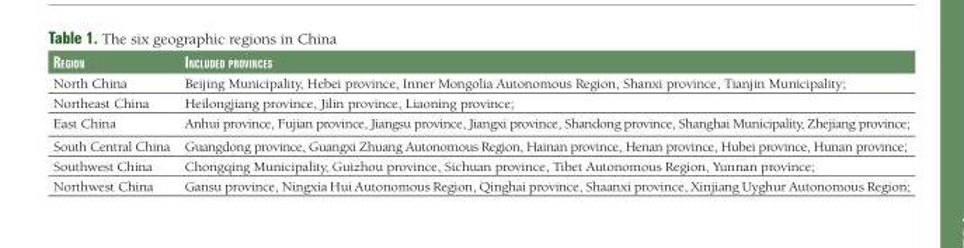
<table><thead><tr><td>Region</td><td>included pRovinces</td></tr></thead><tbody><tr><td>North China</td><td>Beijing Municipality, Hebei province, Inner Mongolia Autonomous Region, Shanxi province, Tianjin Municipality;</td></tr><tr><td>Northeast China</td><td>Heilongjiang province, Jilin province, Liaoning province;</td></tr><tr><td>East China</td><td>Anhui province, Fujian province, Jiangsu province, Jiangxi province, Shandong province, Shanghai Municipality, Zhejiang province;</td></tr><tr><td>South Central China</td><td>Guangdong province, Guangxi Zhuang Autonomous Region, Hainan province, Henan province, Hubei province, Hunan province;</td></tr><tr><td>Southwest China</td><td>Chongqing Municipality, Guizhou province, Sichuan province, Tibet Autonomous Region, Yunnan province;</td></tr><tr><td>Northwest China</td><td>Gansu province, Ningxia Hui Autonomous Region, Qinghai province, Shaanxi province, Xinjiang Uyghur Autonomous Region;</td></tr></tbody></table>